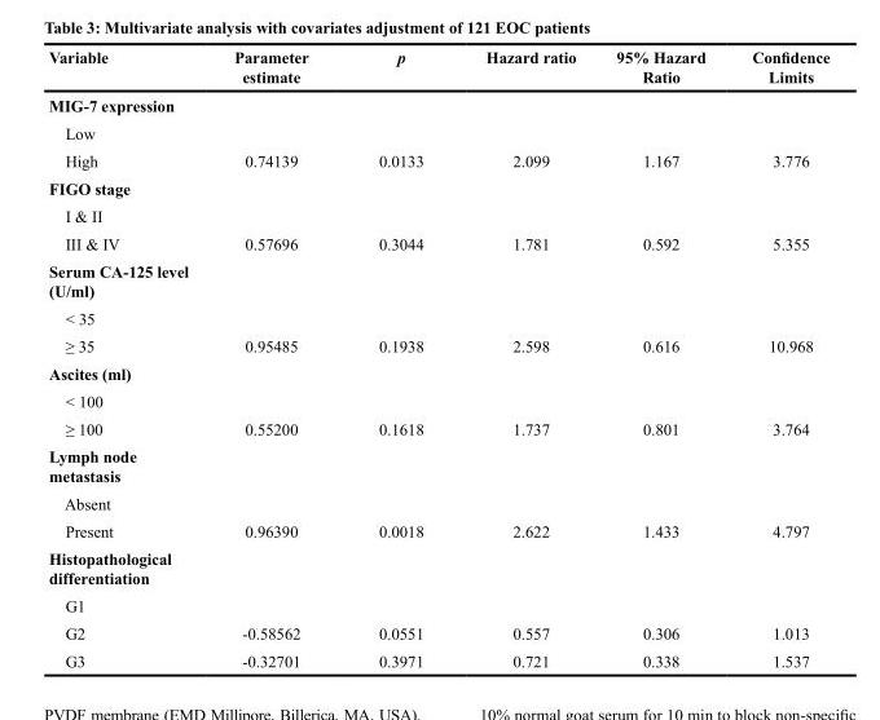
<table><thead><tr><td>Variable</td><td>Parameter estimate</td><td>p</td><td>Hazard ratio</td><td>95% Hazard Ratio</td><td>Confidence Limits</td></tr></thead><tbody><tr><td colspan="6">MIG-7 expression</td></tr><tr><td colspan="6">Low</td></tr><tr><td>High</td><td>0.74139</td><td>0.0133</td><td>2.099</td><td>1.167</td><td>3.776</td></tr><tr><td colspan="6">FIGO stage</td></tr><tr><td colspan="6">I &amp; II</td></tr><tr><td>III &amp; IV</td><td>0.57696</td><td>0.3044</td><td>1.781</td><td>0.592</td><td>5.355</td></tr><tr><td colspan="6">Serum CA-125 level (U/ml)</td></tr><tr><td colspan="6">&lt; 35</td></tr><tr><td>≥ 35</td><td>0.95485</td><td>0.1938</td><td>2.598</td><td>0.616</td><td>10.968</td></tr><tr><td colspan="6">Ascites (ml)</td></tr><tr><td colspan="6">&lt; 100</td></tr><tr><td>≥ 100</td><td>0.55200</td><td>0.1618</td><td>1.737</td><td>0.801</td><td>3.764</td></tr><tr><td colspan="6">Lymph node metastasis</td></tr><tr><td colspan="6">Absent</td></tr><tr><td>Present</td><td>0.96390</td><td>0.0018</td><td>2.622</td><td>1.433</td><td>4.797</td></tr><tr><td colspan="6">Histopathological differentiation</td></tr><tr><td colspan="6">G1</td></tr><tr><td>G2</td><td>-0.58562</td><td>0.0551</td><td>0.557</td><td>0.306</td><td>1.013</td></tr><tr><td>G3</td><td>-0.32701</td><td>0.3971</td><td>0.721</td><td>0.338</td><td>1.537</td></tr></tbody></table>